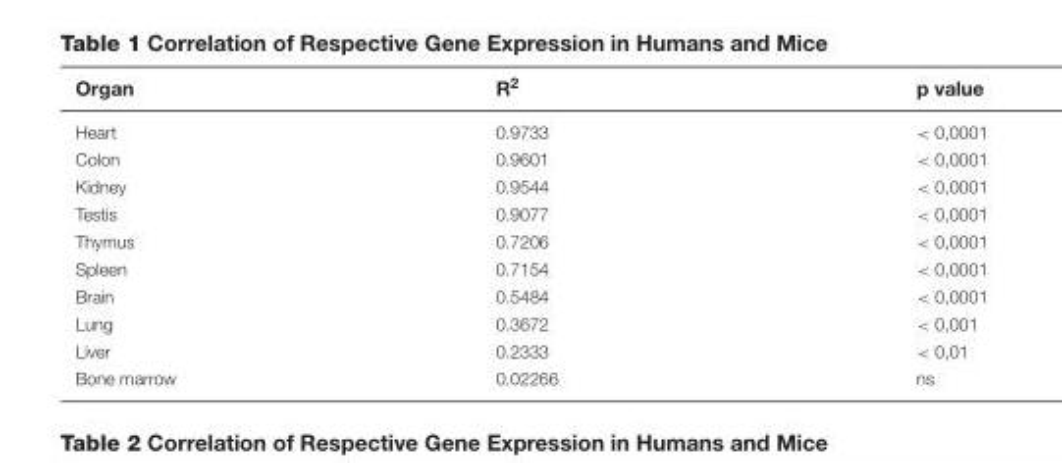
<table><thead><tr><td>Organ</td><td>R<sup>2</sup></td><td>p value</td></tr></thead><tbody><tr><td>Heart</td><td>0.9733</td><td>&lt; 0,0001</td></tr><tr><td>Colon</td><td>0.9601</td><td>&lt; 0,0001</td></tr><tr><td>Kidney</td><td>0.9544</td><td>&lt; 0,0001</td></tr><tr><td>Testis</td><td>0.9077</td><td>&lt; 0,0001</td></tr><tr><td>Thymus</td><td>0.7206</td><td>&lt; 0,0001</td></tr><tr><td>Spleen</td><td>0.7154</td><td>&lt; 0,0001</td></tr><tr><td>Brain</td><td>0.5484</td><td>&lt; 0,0001</td></tr><tr><td>Lung</td><td>0.3672</td><td>&lt; 0,001</td></tr><tr><td>Liver</td><td>0.2333</td><td>&lt; 0,01</td></tr><tr><td>Bone marrow</td><td>0.02266</td><td>ns</td></tr></tbody></table>